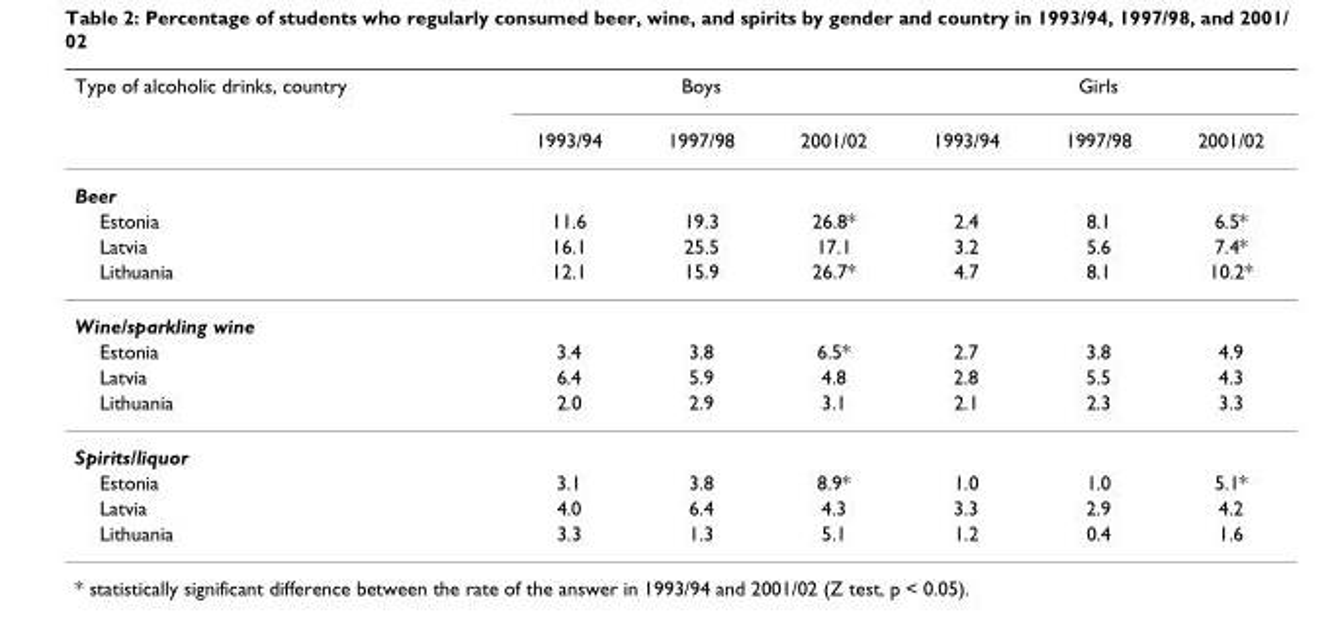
<table><thead><tr><td rowspan="2">Type of alcoholic drinks, country</td><td colspan="3">Boys</td><td colspan="3">Girls</td></tr><tr><td>1993/94</td><td>1997/98</td><td>2001/02</td><td>1993/94</td><td>1997/98</td><td>2001/02</td></tr></thead><tbody><tr><td colspan="7">Beer</td></tr><tr><td>Estonia</td><td>11.6</td><td>19.3</td><td>26.8*</td><td>2.4</td><td>8.1</td><td>6.5*</td></tr><tr><td>Latvia</td><td>16.1</td><td>25.5</td><td>17.1</td><td>3.2</td><td>5.6</td><td>7.4*</td></tr><tr><td>Lithuania</td><td>12.1</td><td>15.9</td><td>26.7*</td><td>4.7</td><td>8.1</td><td>10.2*</td></tr><tr><td colspan="7">Wine/sparkling wine</td></tr><tr><td>Estonia</td><td>3.4</td><td>3.8</td><td>6.5*</td><td>2.7</td><td>3.8</td><td>4.9</td></tr><tr><td>Latvia</td><td>6.4</td><td>5.9</td><td>4.8</td><td>2.8</td><td>5.5</td><td>4.3</td></tr><tr><td>Lithuania</td><td>2.0</td><td>2.9</td><td>3.1</td><td>2.1</td><td>2.3</td><td>3.3</td></tr><tr><td colspan="7">Spirits/liquor</td></tr><tr><td>Estonia</td><td>3.1</td><td>3.8</td><td>8.9*</td><td>1.0</td><td>1.0</td><td>5.1*</td></tr><tr><td>Latvia</td><td>4.0</td><td>6.4</td><td>4.3</td><td>3.3</td><td>2.9</td><td>4.2</td></tr><tr><td>Lithuania</td><td>3.3</td><td>1.3</td><td>5.1</td><td>1.2</td><td>0.4</td><td>1.6</td></tr></tbody></table>